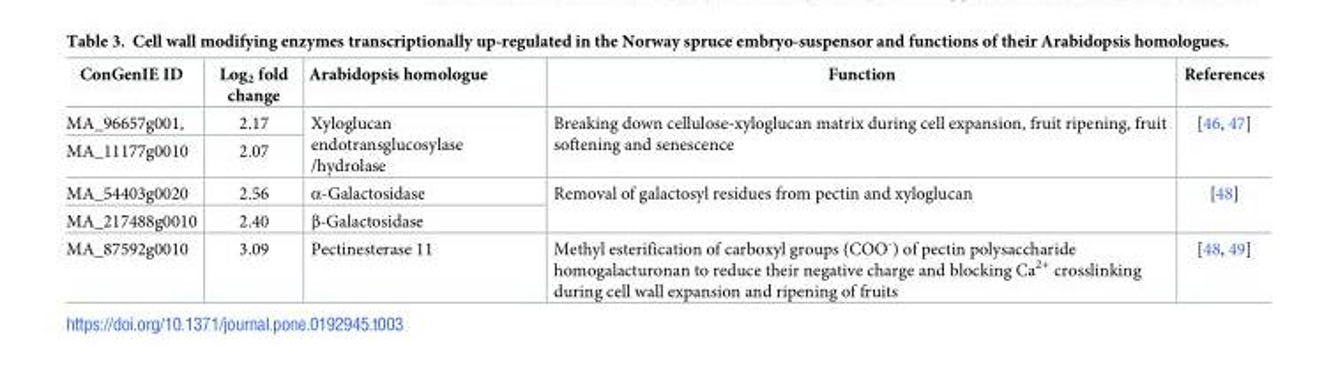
<table><thead><tr><td>ConGenIE ID</td><td>Log<sub>2</sub> fold change</td><td>Arabidopsis homologue</td><td>Function</td><td>References</td></tr></thead><tbody><tr><td>MA_96657g001,</td><td>2.17</td><td rowspan="2">Xyloglucan endotransglucosylase /hydrolase</td><td rowspan="2">Breaking down cellulose-xyloglucan matrix during cell expansion, fruit ripening, fruit softening and senescence</td><td rowspan="2">[46, 47]</td></tr><tr><td>MA_11177g0010</td><td>2.07</td></tr><tr><td>MA_54403g0020</td><td>2.56</td><td>α-Galactosidase</td><td rowspan="2">Removal of galactosyl residues from pectin and xyloglucan</td><td rowspan="2">[48]</td></tr><tr><td>MA_217488g0010</td><td>2.40</td><td>β-Galactosidase</td></tr><tr><td>MA_87592g0010</td><td>3.09</td><td>Pectinesterase 11</td><td>Methyl esterification of carboxyl groups (COO<sup>-</sup>) of pectin polysaccharide homogalacturonan to reduce their negative charge and blocking Ca<sup>2+</sup> crosslinking during cell wall expansion and ripening of fruits</td><td>[48, 49]</td></tr></tbody></table>